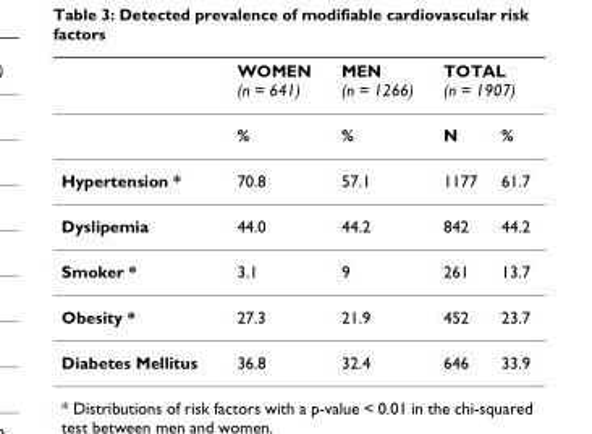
<table><thead><tr><td rowspan="2"></td><td rowspan="2">WOMEN (n = 641) %</td><td rowspan="2">MEN (n = 1266) %</td><td colspan="2">TOTAL (n = 1907)</td></tr><tr><td>N</td><td>%</td></tr></thead><tbody><tr><td>Hypertension *</td><td>70.8</td><td>57.1</td><td>1177</td><td>61.7</td></tr><tr><td>Dyslipemia</td><td>44.0</td><td>44.2</td><td>842</td><td>44.2</td></tr><tr><td>Smoker *</td><td>3.1</td><td>9</td><td>261</td><td>13.7</td></tr><tr><td>Obesity *</td><td>27.3</td><td>21.9</td><td>452</td><td>23.7</td></tr><tr><td>Diabetes Mellitus</td><td>36.8</td><td>32.4</td><td>646</td><td>33.9</td></tr></tbody></table>